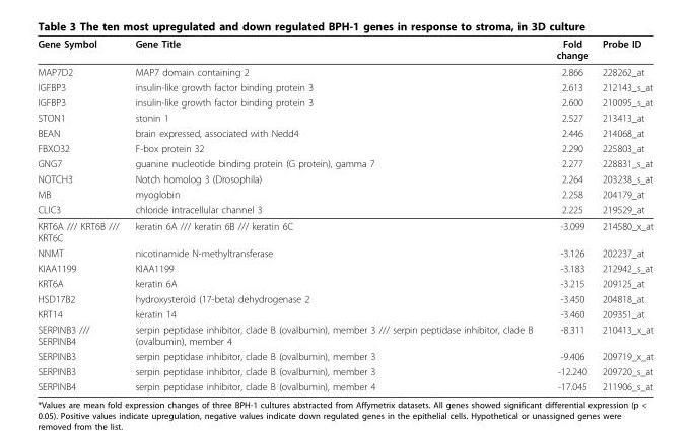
<table><thead><tr><td>Gene Symbol</td><td>Gene Title</td><td>Fold change</td><td>Probe ID</td></tr></thead><tbody><tr><td>MAP7D2</td><td>MAP7 domain containing 2</td><td>2.866</td><td>228262_at</td></tr><tr><td>IGFBP3</td><td>insulin-like growth factor binding protein 3</td><td>2.613</td><td>212143_s_at</td></tr><tr><td>IGFBP3</td><td>insulin-like growth factor binding protein 3</td><td>2.600</td><td>210095_s_at</td></tr><tr><td>STON1</td><td>stonin 1</td><td>2.527</td><td>213413_at</td></tr><tr><td>BEAN</td><td>brain expressed, associated with Nedd4</td><td>2.446</td><td>214068_at</td></tr><tr><td>FBXO32</td><td>F-box protein 32</td><td>2.290</td><td>225803_at</td></tr><tr><td>GNG7</td><td>guanine nucleotide binding protein (G protein), gamma 7</td><td>2.277</td><td>228831_s_at</td></tr><tr><td>NOTCH3</td><td>Notch homolog 3 (Drosophila)</td><td>2.264</td><td>203238_s_at</td></tr><tr><td>MB</td><td>myoglobin</td><td>2.258</td><td>204179_at</td></tr><tr><td>CLIC3</td><td>chloride intracellular channel 3</td><td>2.225</td><td>219529_at</td></tr><tr><td>KRT6A /// KRT6B /// KRT6C</td><td>keratin 6A /// keratin 6B /// keratin 6C</td><td>-3.099</td><td>214580_x_at</td></tr><tr><td>NNMT</td><td>nicotinamide N-methyltransferase</td><td>-3.126</td><td>202237_at</td></tr><tr><td>KIAA1199</td><td>KIAA1199</td><td>-3.183</td><td>212942_s_at</td></tr><tr><td>KRT6A</td><td>keratin 6A</td><td>-3.215</td><td>209125_at</td></tr><tr><td>HSD17B2</td><td>hydroxysteroid (17-beta) dehydrogenase 2</td><td>-3.450</td><td>204818_at</td></tr><tr><td>KRT14</td><td>keratin 14</td><td>-3.460</td><td>209351_at</td></tr><tr><td>SERPINB3 /// SERPINB4</td><td>serpin peptidase inhibitor, clade B (ovalbumin), member 3 /// serpin peptidase inhibitor, clade B (ovalbumin), member 4</td><td>-8.311</td><td>210413_x_at</td></tr><tr><td>SERPINB3</td><td>serpin peptidase inhibitor, clade B (ovalbumin), member 3</td><td>-9.406</td><td>209719_x_at</td></tr><tr><td>SERPINB3</td><td>serpin peptidase inhibitor, clade B (ovalbumin), member 3</td><td>-12.240</td><td>209720_s_at</td></tr><tr><td>SERPINB4</td><td>serpin peptidase inhibitor, clade B (ovalbumin), member 4</td><td>-17.045</td><td>211906_s_at</td></tr></tbody></table>